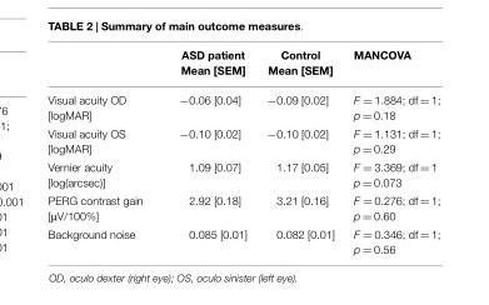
<table><thead><tr><td rowspan="2"></td><td rowspan="2">ASD patient Mean [SEM]</td><td rowspan="2">Control Mean [SEM]</td><td rowspan="2">MANCOVA</td></tr><tr></tr></thead><tbody><tr><td>Visual acuity OD [logMAR]</td><td>−0.06 [0.04]</td><td>−0.09 [0.02]</td><td>F = 1.884; df = 1; p = 0.18</td></tr><tr><td>Visual acuity OS [logMAR]</td><td>−0.10 [0.02]</td><td>−0.10 [0.02]</td><td>F = 1.131; df = 1; p = 0.29</td></tr><tr><td>Vernier acuity [log(arcsec)]</td><td>1.09 [0.07]</td><td>1.17 [0.05]</td><td>F = 3.369; df = 1 p = 0.073</td></tr><tr><td>PERG contrast gain [μV/100%]</td><td>2.92 [0.18]</td><td>3.21 [0.16]</td><td>F = 0.276; df = 1; p = 0.60</td></tr><tr><td>Background noise</td><td>0.085 [0.01]</td><td>0.082 [0.01]</td><td>F = 0.346; df = 1; p = 0.56</td></tr></tbody></table>